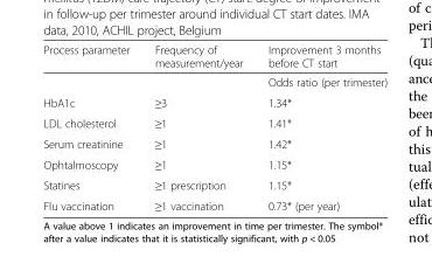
<table><thead><tr><td>Process parameter</td><td>Frequency of measurement/year</td><td>Improvement 3 months before CT start</td></tr></thead><tbody><tr><td></td><td></td><td>Odds ratio (per trimester)</td></tr><tr><td>HbA1c</td><td>≥3</td><td>1.34*</td></tr><tr><td>LDL cholesterol</td><td>≥1</td><td>1.41*</td></tr><tr><td>Serum creatinine</td><td>≥1</td><td>1.42*</td></tr><tr><td>Ophtalmoscopy</td><td>≥1</td><td>1.15*</td></tr><tr><td>Statines</td><td>≥1 prescription</td><td>1.15*</td></tr><tr><td>Flu vaccination</td><td>≥1 vaccination</td><td>0.73* (per year)</td></tr></tbody></table>